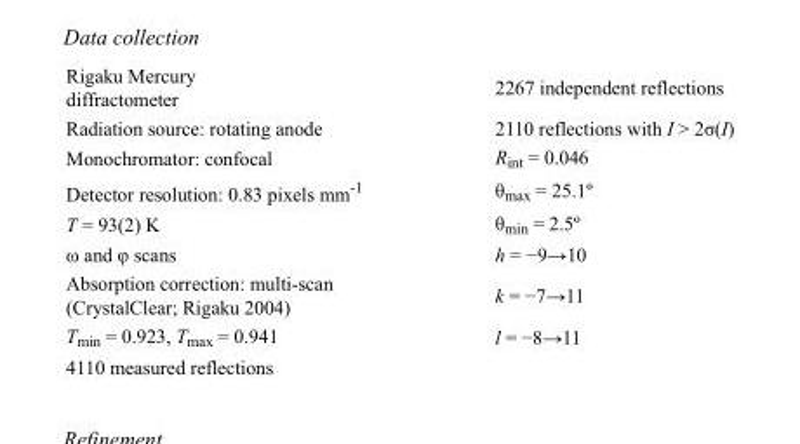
<table><tbody><tr><td>Rigaku Mercury diffractometer</td><td>2267 independent reflections</td></tr><tr><td>Radiation source: rotating anode</td><td>2110 reflections with I &gt; 2σ(I)</td></tr><tr><td>Monochromator: confocal</td><td>R<sub>int</sub> = 0.046</td></tr><tr><td>Detector resolution: 0.83 pixels mm<sup>-1</sup></td><td>θ<sub>max</sub> = 25.1º</td></tr><tr><td>T = 93(2) K</td><td>θ<sub>min</sub> = 2.5º</td></tr><tr><td>ω and φ scans</td><td>h = −9→10</td></tr><tr><td>Absorption correction: multi-scan (CrystalClear; Rigaku 2004)</td><td>k = −7→11</td></tr><tr><td>T<sub>min</sub> = 0.923, T<sub>max</sub> = 0.941</td><td>l = −8→11</td></tr><tr><td>4110 measured reflections</td><td></td></tr></tbody></table>